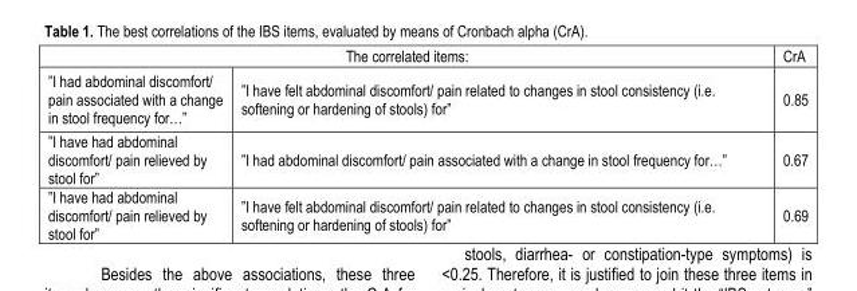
<table><thead><tr><td rowspan="4">”I had abdominal discomfort/ pain associated with a change in stool frequency for…” ”I have had abdominal discomfort/ pain relieved by stool for” ”I have had abdominal discomfort/ pain relieved by stool for”</td><td rowspan="4">The correlated items: ”I have felt abdominal discomfort/ pain related to changes in stool consistency (i.e. softening or hardening of stools) for” ”I had abdominal discomfort/ pain associated with a change in stool frequency for…” ”I have felt abdominal discomfort/ pain related to changes in stool consistency (i.e. softening or hardening of stools) for”</td><td rowspan="4">CrA 0.85 0.67 0.69</td></tr><tr></tr><tr></tr><tr></tr></thead><tbody></tbody></table>